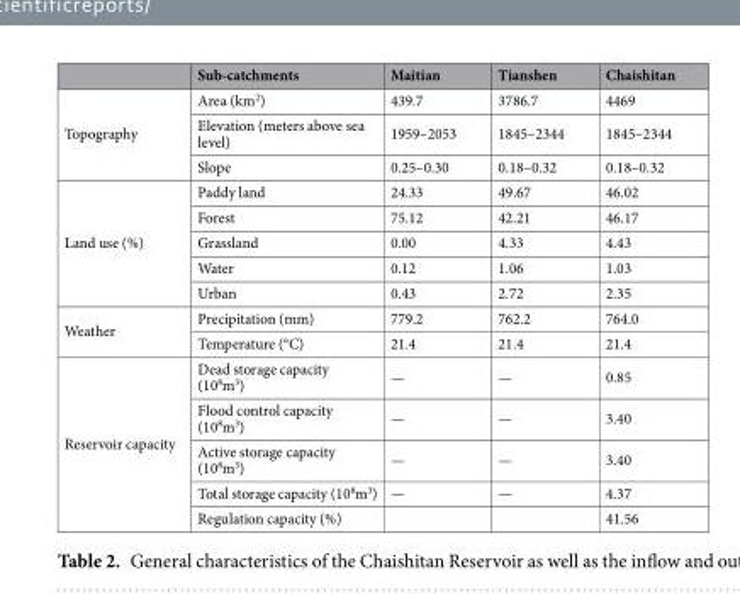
<table><thead><tr><td></td><td>Sub-catchments</td><td>Maitian</td><td>Tianshen</td><td>Chaishitan</td></tr></thead><tbody><tr><td rowspan="3">Topography</td><td>Area (km<sup>2</sup>)</td><td>439.7</td><td>3786.7</td><td>4469</td></tr><tr><td>Elevation (meters above sea level)</td><td>1959–2053</td><td>1845–2344</td><td>1845–2344</td></tr><tr><td>Slope</td><td>0.25–0.30</td><td>0.18–0.32</td><td>0.18–0.32</td></tr><tr><td rowspan="5">Land use (%)</td><td>Paddy land</td><td>24.33</td><td>49.67</td><td>46.02</td></tr><tr><td>Forest</td><td>75.12</td><td>42.21</td><td>46.17</td></tr><tr><td>Grassland</td><td>0.00</td><td>4.33</td><td>4.43</td></tr><tr><td>Water</td><td>0.12</td><td>1.06</td><td>1.03</td></tr><tr><td>Urban</td><td>0.43</td><td>2.72</td><td>2.35</td></tr><tr><td rowspan="2">Weather</td><td>Precipitation (mm)</td><td>779.2</td><td>762.2</td><td>764.0</td></tr><tr><td>Temperature (°C)</td><td>21.4</td><td>21.4</td><td>21.4</td></tr><tr><td rowspan="5">Reservoir capacity</td><td>Dead storage capacity (10<sup>8</sup>m<sup>3</sup>)</td><td>—</td><td>—</td><td>0.85</td></tr><tr><td>Flood control capacity (10<sup>8</sup>m<sup>3</sup>)</td><td>—</td><td>—</td><td>3.40</td></tr><tr><td>Active storage capacity (10<sup>8</sup>m<sup>3</sup>)</td><td>—</td><td>—</td><td>3.40</td></tr><tr><td>Total storage capacity (10<sup>8</sup>m<sup>3</sup>)</td><td>—</td><td>—</td><td>4.37</td></tr><tr><td>Regulation capacity (%)</td><td></td><td></td><td>41.56</td></tr></tbody></table>